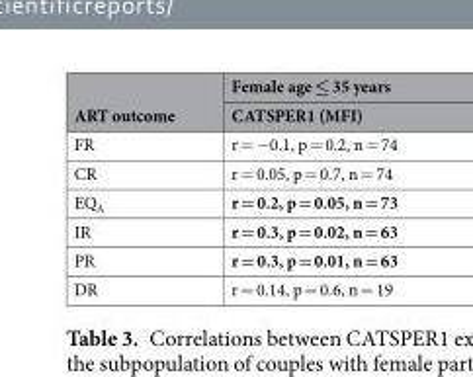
<table><thead><tr><td rowspan="2">ART outcome</td><td rowspan="2">Female age ≤ 35 years CATSPER1 (MFI)</td></tr><tr></tr></thead><tbody><tr><td>FR</td><td>r = −0.1, p = 0.2, n = 74</td></tr><tr><td>CR</td><td>r = 0.05, p = 0.7, n = 74</td></tr><tr><td>EQ<sub>A</sub></td><td>r = 0.2, p = 0.05, n = 73</td></tr><tr><td>IR</td><td>r = 0.3, p = 0.02, n = 63</td></tr><tr><td>PR</td><td>r = 0.3, p = 0.01, n = 63</td></tr><tr><td>DR</td><td>r = 0.14, p = 0.6, n = 19</td></tr></tbody></table>